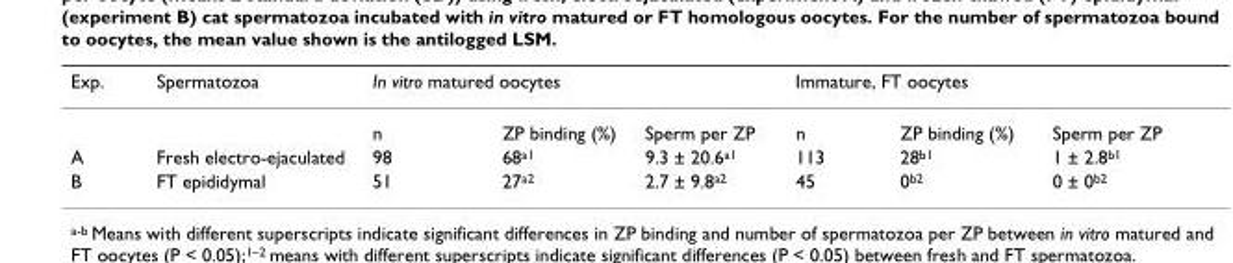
<table><thead><tr><td rowspan="2">Exp.</td><td rowspan="2">Spermatozoa</td><td colspan="3">In vitro matured oocytes</td><td colspan="3">Immature, FT oocytes</td></tr><tr><td>n</td><td>ZP binding (%)</td><td>Sperm per ZP</td><td>n</td><td>ZP binding (%)</td><td>Sperm per ZP</td></tr></thead><tbody><tr><td>A</td><td>Fresh electro-ejaculated</td><td>98</td><td>68<sup>a1</sup></td><td>9.3 ± 20.6<sup>a1</sup></td><td>113</td><td>28<sup>b1</sup></td><td>1 ± 2.8<sup>b1</sup></td></tr><tr><td>B</td><td>FT epididymal</td><td>51</td><td>27<sup>a2</sup></td><td>2.7 ± 9.8<sup>a2</sup></td><td>45</td><td>0<sup>b2</sup></td><td>0 ± 0<sup>b2</sup></td></tr></tbody></table>